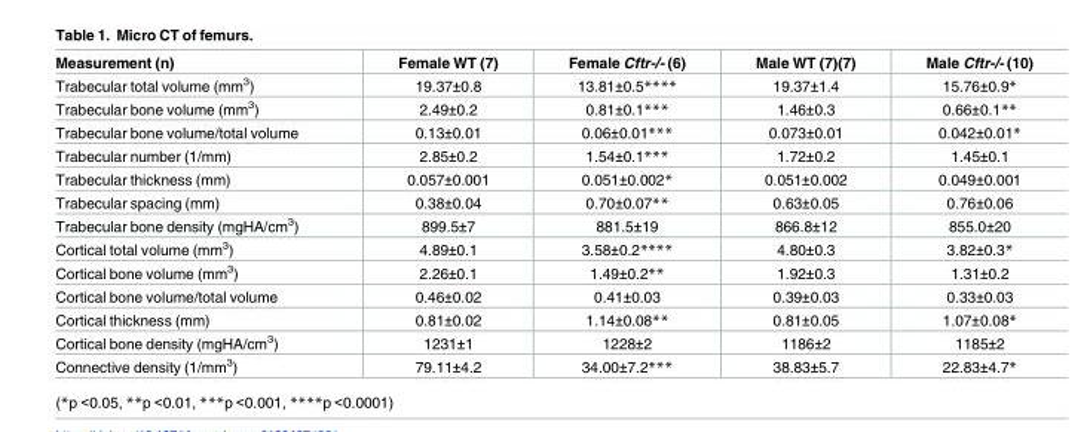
<table><thead><tr><td>Measurement (n)</td><td>Female WT (7)</td><td>Female Cftr-/- (6)</td><td>Male WT (7)(7)</td><td>Male Cftr-/- (10)</td></tr></thead><tbody><tr><td>Trabecular total volume (mm<sup>3</sup>)</td><td>19.37±0.8</td><td>13.81±0.5****</td><td>19.37±1.4</td><td>15.76±0.9*</td></tr><tr><td>Trabecular bone volume (mm<sup>3</sup>)</td><td>2.49±0.2</td><td>0.81±0.1***</td><td>1.46±0.3</td><td>0.66±0.1**</td></tr><tr><td>Trabecular bone volume/total volume</td><td>0.13±0.01</td><td>0.06±0.01***</td><td>0.073±0.01</td><td>0.042±0.01*</td></tr><tr><td>Trabecular number (1/mm)</td><td>2.85±0.2</td><td>1.54±0.1***</td><td>1.72±0.2</td><td>1.45±0.1</td></tr><tr><td>Trabecular thickness (mm)</td><td>0.057±0.001</td><td>0.051±0.002*</td><td>0.051±0.002</td><td>0.049±0.001</td></tr><tr><td>Trabecular spacing (mm)</td><td>0.38±0.04</td><td>0.70±0.07**</td><td>0.63±0.05</td><td>0.76±0.06</td></tr><tr><td>Trabecular bone density (mgHA/cm<sup>3</sup>)</td><td>899.5±7</td><td>881.5±19</td><td>866.8±12</td><td>855.0±20</td></tr><tr><td>Cortical total volume (mm<sup>3</sup>)</td><td>4.89±0.1</td><td>3.58±0.2****</td><td>4.80±0.3</td><td>3.82±0.3*</td></tr><tr><td>Cortical bone volume (mm<sup>3</sup>)</td><td>2.26±0.1</td><td>1.49±0.2**</td><td>1.92±0.3</td><td>1.31±0.2</td></tr><tr><td>Cortical bone volume/total volume</td><td>0.46±0.02</td><td>0.41±0.03</td><td>0.39±0.03</td><td>0.33±0.03</td></tr><tr><td>Cortical thickness (mm)</td><td>0.81±0.02</td><td>1.14±0.08**</td><td>0.81±0.05</td><td>1.07±0.08*</td></tr><tr><td>Cortical bone density (mgHA/cm<sup>3</sup>)</td><td>1231±1</td><td>1228±2</td><td>1186±2</td><td>1185±2</td></tr><tr><td>Connective density (1/mm<sup>3</sup>)</td><td>79.11±4.2</td><td>34.00±7.2***</td><td>38.83±5.7</td><td>22.83±4.7*</td></tr></tbody></table>